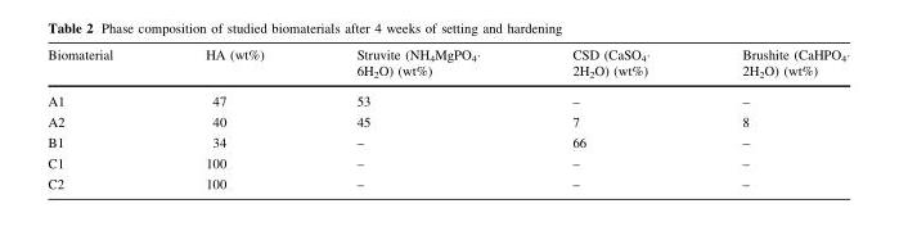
<table><thead><tr><td>Biomaterial</td><td>HA (wt%)</td><td>Struvite (NH<sub>4</sub>MgPO<sub>4</sub>· 6H<sub>2</sub>O) (wt%)</td><td>CSD (CaSO<sub>4</sub>· 2H<sub>2</sub>O) (wt%)</td><td>Brushite (CaHPO<sub>4</sub>· 2H<sub>2</sub>O) (wt%)</td></tr></thead><tbody><tr><td>A1</td><td>47</td><td>53</td><td>–</td><td>–</td></tr><tr><td>A2</td><td>40</td><td>45</td><td>7</td><td>8</td></tr><tr><td>B1</td><td>34</td><td>–</td><td>66</td><td>–</td></tr><tr><td>C1</td><td>100</td><td>–</td><td>–</td><td>–</td></tr><tr><td>C2</td><td>100</td><td>–</td><td>–</td><td>–</td></tr></tbody></table>